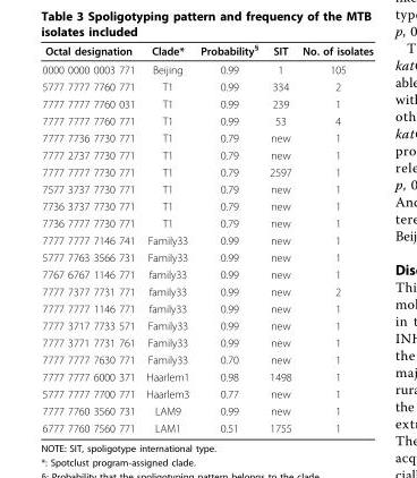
<table><thead><tr><td>Octal designation</td><td>Clade*</td><td>Probability<sup>§</sup></td><td>SIT</td><td>No. of isolates</td></tr></thead><tbody><tr><td>0000 0000 0003 771</td><td>Beijing</td><td>0.99</td><td>1</td><td>105</td></tr><tr><td>5777 7777 7760 771</td><td>T1</td><td>0.99</td><td>334</td><td>2</td></tr><tr><td>7777 7777 7760 031</td><td>T1</td><td>0.99</td><td>239</td><td>1</td></tr><tr><td>7777 7777 7760 771</td><td>T1</td><td>0.99</td><td>53</td><td>4</td></tr><tr><td>7777 7736 7730 771</td><td>T1</td><td>0.79</td><td>new</td><td>1</td></tr><tr><td>7777 2737 7730 771</td><td>T1</td><td>0.79</td><td>new</td><td>1</td></tr><tr><td>7777 7777 7730 771</td><td>T1</td><td>0.79</td><td>2597</td><td>1</td></tr><tr><td>7577 3737 7730 771</td><td>T1</td><td>0.79</td><td>new</td><td>1</td></tr><tr><td>7736 3737 7730 771</td><td>T1</td><td>0.79</td><td>new</td><td>1</td></tr><tr><td>7736 7777 7730 771</td><td>T1</td><td>0.79</td><td>new</td><td>1</td></tr><tr><td>7777 7777 7146 741</td><td>Family33</td><td>0.99</td><td>new</td><td>1</td></tr><tr><td>5777 7763 3566 731</td><td>Family33</td><td>0.99</td><td>new</td><td>1</td></tr><tr><td>7767 6767 1146 771</td><td>family33</td><td>0.99</td><td>new</td><td>1</td></tr><tr><td>7777 7377 7731 771</td><td>family33</td><td>0.99</td><td>new</td><td>2</td></tr><tr><td>7777 7777 1146 771</td><td>family33</td><td>0.99</td><td>new</td><td>1</td></tr><tr><td>7777 3717 7733 571</td><td>Family33</td><td>0.99</td><td>new</td><td>1</td></tr><tr><td>7777 3771 7731 761</td><td>Family33</td><td>0.99</td><td>new</td><td>1</td></tr><tr><td>7777 7777 7630 771</td><td>Family33</td><td>0.70</td><td>new</td><td>1</td></tr><tr><td>7777 7777 6000 371</td><td>Haarlem1</td><td>0.98</td><td>1498</td><td>1</td></tr><tr><td>5777 7777 7700 771</td><td>Haarlem3</td><td>0.77</td><td>new</td><td>1</td></tr><tr><td>7777 7760 3560 731</td><td>LAM9</td><td>0.99</td><td>new</td><td>1</td></tr><tr><td>6777 7760 7560 771</td><td>LAM1</td><td>0.51</td><td>1755</td><td>1</td></tr></tbody></table>